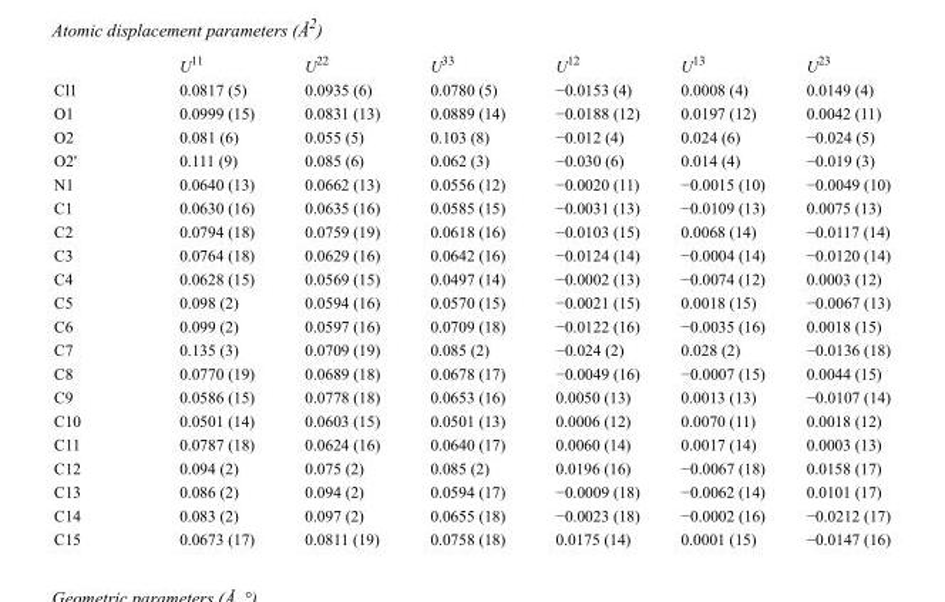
<table><thead><tr><td></td><td>U<sup>11</sup></td><td>U<sup>22</sup></td><td>U<sup>33</sup></td><td>U<sup>12</sup></td><td>U<sup>13</sup></td><td>U<sup>23</sup></td></tr></thead><tbody><tr><td>Cl1</td><td>0.0817 (5)</td><td>0.0935 (6)</td><td>0.0780 (5)</td><td>−0.0153 (4)</td><td>0.0008 (4)</td><td>0.0149 (4)</td></tr><tr><td>O1</td><td>0.0999 (15)</td><td>0.0831 (13)</td><td>0.0889 (14)</td><td>−0.0188 (12)</td><td>0.0197 (12)</td><td>0.0042 (11)</td></tr><tr><td>O2</td><td>0.081 (6)</td><td>0.055 (5)</td><td>0.103 (8)</td><td>−0.012 (4)</td><td>0.024 (6)</td><td>−0.024 (5)</td></tr><tr><td>O2&#x27;</td><td>0.111 (9)</td><td>0.085 (6)</td><td>0.062 (3)</td><td>−0.030 (6)</td><td>0.014 (4)</td><td>−0.019 (3)</td></tr><tr><td>N1</td><td>0.0640 (13)</td><td>0.0662 (13)</td><td>0.0556 (12)</td><td>−0.0020 (11)</td><td>−0.0015 (10)</td><td>−0.0049 (10)</td></tr><tr><td>C1</td><td>0.0630 (16)</td><td>0.0635 (16)</td><td>0.0585 (15)</td><td>−0.0031 (13)</td><td>−0.0109 (13)</td><td>0.0075 (13)</td></tr><tr><td>C2</td><td>0.0794 (18)</td><td>0.0759 (19)</td><td>0.0618 (16)</td><td>−0.0103 (15)</td><td>0.0068 (14)</td><td>−0.0117 (14)</td></tr><tr><td>C3</td><td>0.0764 (18)</td><td>0.0629 (16)</td><td>0.0642 (16)</td><td>−0.0124 (14)</td><td>−0.0004 (14)</td><td>−0.0120 (14)</td></tr><tr><td>C4</td><td>0.0628 (15)</td><td>0.0569 (15)</td><td>0.0497 (14)</td><td>−0.0002 (13)</td><td>−0.0074 (12)</td><td>0.0003 (12)</td></tr><tr><td>C5</td><td>0.098 (2)</td><td>0.0594 (16)</td><td>0.0570 (15)</td><td>−0.0021 (15)</td><td>0.0018 (15)</td><td>−0.0067 (13)</td></tr><tr><td>C6</td><td>0.099 (2)</td><td>0.0597 (16)</td><td>0.0709 (18)</td><td>−0.0122 (16)</td><td>−0.0035 (16)</td><td>0.0018 (15)</td></tr><tr><td>C7</td><td>0.135 (3)</td><td>0.0709 (19)</td><td>0.085 (2)</td><td>−0.024 (2)</td><td>0.028 (2)</td><td>−0.0136 (18)</td></tr><tr><td>C8</td><td>0.0770 (19)</td><td>0.0689 (18)</td><td>0.0678 (17)</td><td>−0.0049 (16)</td><td>−0.0007 (15)</td><td>0.0044 (15)</td></tr><tr><td>C9</td><td>0.0586 (15)</td><td>0.0778 (18)</td><td>0.0653 (16)</td><td>0.0050 (13)</td><td>0.0013 (13)</td><td>−0.0107 (14)</td></tr><tr><td>C10</td><td>0.0501 (14)</td><td>0.0603 (15)</td><td>0.0501 (13)</td><td>0.0006 (12)</td><td>0.0070 (11)</td><td>0.0018 (12)</td></tr><tr><td>C11</td><td>0.0787 (18)</td><td>0.0624 (16)</td><td>0.0640 (17)</td><td>0.0060 (14)</td><td>0.0017 (14)</td><td>0.0003 (13)</td></tr><tr><td>C12</td><td>0.094 (2)</td><td>0.075 (2)</td><td>0.085 (2)</td><td>0.0196 (16)</td><td>−0.0067 (18)</td><td>0.0158 (17)</td></tr><tr><td>C13</td><td>0.086 (2)</td><td>0.094 (2)</td><td>0.0594 (17)</td><td>−0.0009 (18)</td><td>−0.0062 (14)</td><td>0.0101 (17)</td></tr><tr><td>C14</td><td>0.083 (2)</td><td>0.097 (2)</td><td>0.0655 (18)</td><td>−0.0023 (18)</td><td>−0.0002 (16)</td><td>−0.0212 (17)</td></tr><tr><td>C15</td><td>0.0673 (17)</td><td>0.0811 (19)</td><td>0.0758 (18)</td><td>0.0175 (14)</td><td>0.0001 (15)</td><td>−0.0147 (16)</td></tr></tbody></table>